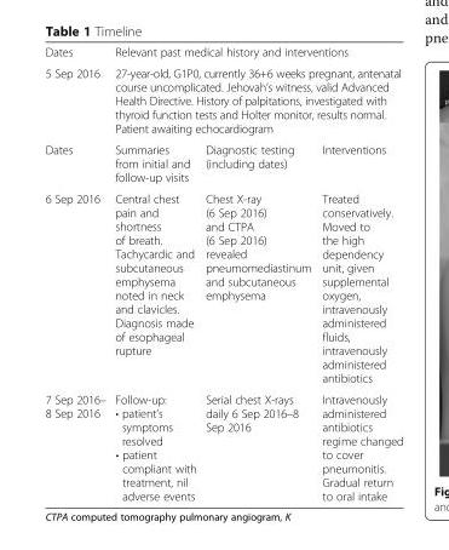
<table><tbody><tr><td>Dates</td><td colspan="3">Relevant past medical history and interventions</td></tr><tr><td>5 Sep 2016</td><td colspan="3">27-year-old, G1P0, currently 36+6 weeks pregnant, antenatal course uncomplicated. Jehovah’s witness, valid Advanced Health Directive. History of palpitations, investigated with thyroid function tests and Holter monitor, results normal. Patient awaiting echocardiogram</td></tr><tr><td>Dates</td><td>Summaries from initial and follow-up visits</td><td>Diagnostic testing (including dates)</td><td>Interventions</td></tr><tr><td>6 Sep 2016</td><td>Central chest pain and shortness of breath. Tachycardic and subcutaneous emphysema noted in neck and clavicles. Diagnosis made of esophageal rupture</td><td>Chest X-ray (6 Sep 2016) and CTPA (6 Sep 2016) revealed pneumomediastinum and subcutaneous emphysema</td><td>Treated conservatively. Moved to the high dependency unit, given supplemental oxygen, intravenously administered fluids, intravenously administered antibiotics</td></tr><tr><td>7 Sep 2016– 8 Sep 2016</td><td>Follow-up: • patient’s symptoms resolved • patient compliant with treatment, nil adverse events</td><td>Serial chest X-rays daily 6 Sep 2016–8 Sep 2016</td><td>Intravenously administered antibiotics regime changed to cover pneumonitis. Gradual return to oral intake</td></tr></tbody></table>